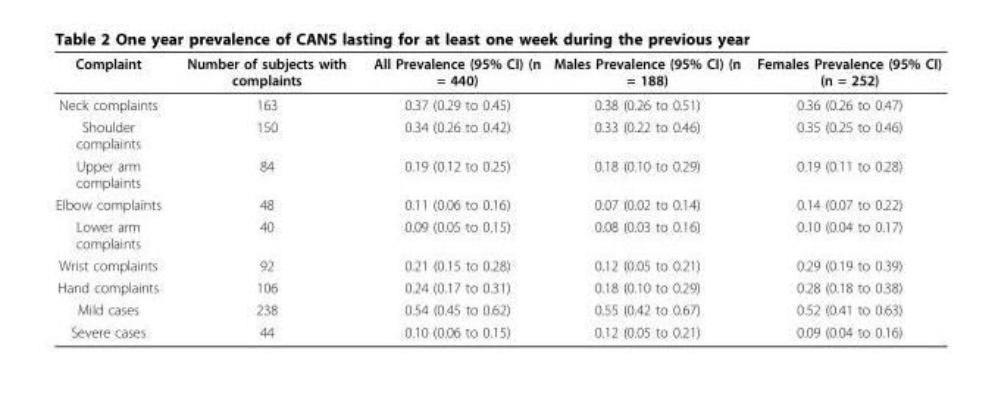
<table><thead><tr><td>Complaint</td><td>Number of subjects with complaints</td><td>All Prevalence (95% CI) (n = 440)</td><td>Males Prevalence (95% CI) (n = 188)</td><td>Females Prevalence (95% CI) (n = 252)</td></tr></thead><tbody><tr><td>Neck complaints</td><td>163</td><td>0.37 (0.29 to 0.45)</td><td>0.38 (0.26 to 0.51)</td><td>0.36 (0.26 to 0.47)</td></tr><tr><td>Shoulder complaints</td><td>150</td><td>0.34 (0.26 to 0.42)</td><td>0.33 (0.22 to 0.46)</td><td>0.35 (0.25 to 0.46)</td></tr><tr><td>Upper arm complaints</td><td>84</td><td>0.19 (0.12 to 0.25)</td><td>0.18 (0.10 to 0.29)</td><td>0.19 (0.11 to 0.28)</td></tr><tr><td>Elbow complaints</td><td>48</td><td>0.11 (0.06 to 0.16)</td><td>0.07 (0.02 to 0.14)</td><td>0.14 (0.07 to 0.22)</td></tr><tr><td>Lower arm complaints</td><td>40</td><td>0.09 (0.05 to 0.15)</td><td>0.08 (0.03 to 0.16)</td><td>0.10 (0.04 to 0.17)</td></tr><tr><td>Wrist complaints</td><td>92</td><td>0.21 (0.15 to 0.28)</td><td>0.12 (0.05 to 0.21)</td><td>0.29 (0.19 to 0.39)</td></tr><tr><td>Hand complaints</td><td>106</td><td>0.24 (0.17 to 0.31)</td><td>0.18 (0.10 to 0.29)</td><td>0.28 (0.18 to 0.38)</td></tr><tr><td>Mild cases</td><td>238</td><td>0.54 (0.45 to 0.62)</td><td>0.55 (0.42 to 0.67)</td><td>0.52 (0.41 to 0.63)</td></tr><tr><td>Severe cases</td><td>44</td><td>0.10 (0.06 to 0.15)</td><td>0.12 (0.05 to 0.21)</td><td>0.09 (0.04 to 0.16)</td></tr></tbody></table>